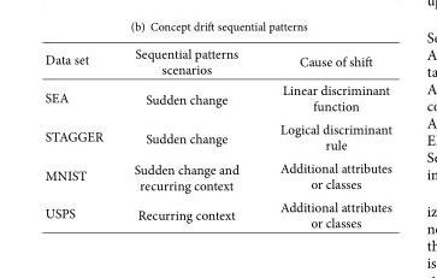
<table><thead><tr><td>Data set</td><td>Sequential patterns scenarios</td><td>Cause of shift</td></tr></thead><tbody><tr><td>SEA</td><td>Sudden change</td><td>Linear discriminant function</td></tr><tr><td>STAGGER</td><td>Sudden change</td><td>Logical discriminant rule</td></tr><tr><td>MNIST</td><td>Sudden change and recurring context</td><td>Additional attributes or classes</td></tr><tr><td>USPS</td><td>Recurring context</td><td>Additional attributes or classes</td></tr></tbody></table>